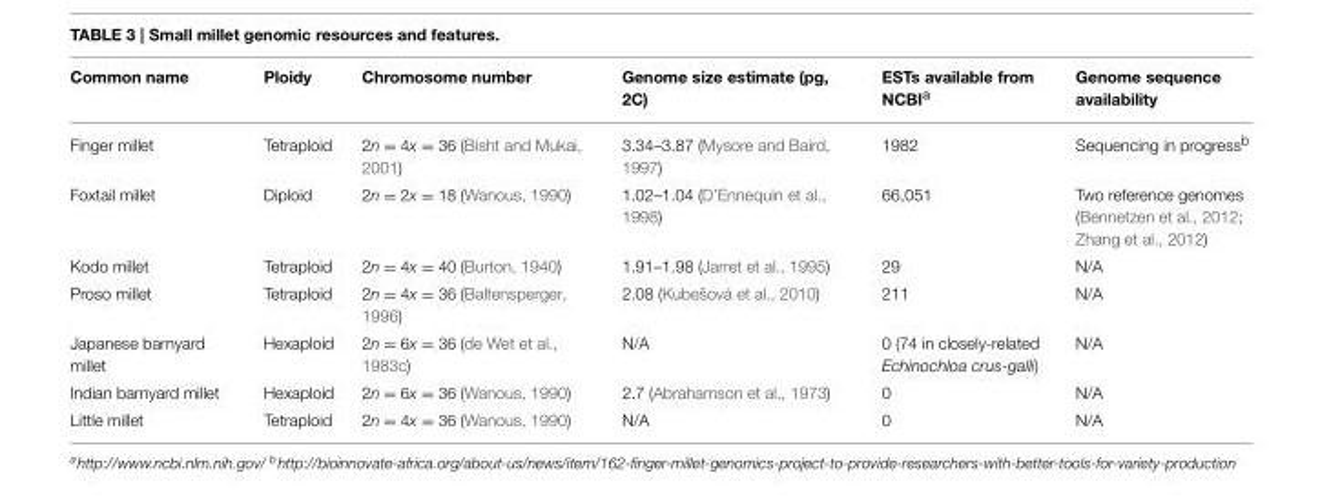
<table><thead><tr><td>Common name</td><td>Ploidy</td><td>Chromosome number</td><td>Genome size estimate (pg, 2C)</td><td>ESTs available from NCBI<sup>a</sup></td><td>Genome sequence availability</td></tr></thead><tbody><tr><td>Finger millet</td><td>Tetraploid</td><td>2n = 4x = 36 (Bisht and Mukai, 2001)</td><td>3.34–3.87 (Mysore and Baird, 1997)</td><td>1982</td><td>Sequencing in progress<sup>b</sup></td></tr><tr><td>Foxtail millet</td><td>Diploid</td><td>2n = 2x = 18 (Wanous, 1990)</td><td>1.02–1.04 (D’Ennequin et al., 1998)</td><td>66,051</td><td>Two reference genomes (Bennetzen et al., 2012; Zhang et al., 2012)</td></tr><tr><td>Kodo millet</td><td>Tetraploid</td><td>2n = 4x = 40 (Burton, 1940)</td><td>1.91–1.98 (Jarret et al., 1995)</td><td>29</td><td>N/A</td></tr><tr><td>Proso millet</td><td>Tetraploid</td><td>2n = 4x = 36 (Baltensperger, 1996)</td><td>2.08 (Kubešová et al., 2010)</td><td>211</td><td>N/A</td></tr><tr><td>Japanese barnyard millet</td><td>Hexaploid</td><td>2n = 6x = 36 (de Wet et al., 1983c)</td><td>N/A</td><td>0 (74 in closely-related Echinochloa crus-galli)</td><td>N/A</td></tr><tr><td>Indian barnyard millet</td><td>Hexaploid</td><td>2n = 6x = 36 (Wanous, 1990)</td><td>2.7 (Abrahamson et al., 1973)</td><td>0</td><td>N/A</td></tr><tr><td>Little millet</td><td>Tetraploid</td><td>2n = 4x = 36 (Wanous, 1990)</td><td>N/A</td><td>0</td><td>N/A</td></tr></tbody></table>